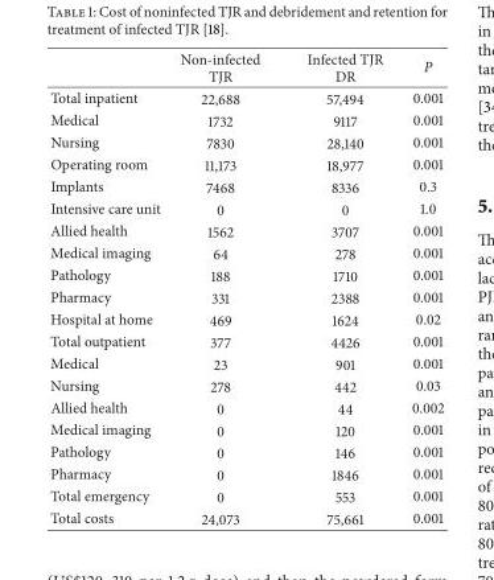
<table><thead><tr><td></td><td>Non-infected TJR</td><td>Infected TJR DR</td><td>P</td></tr></thead><tbody><tr><td>Total inpatient</td><td>22,688</td><td>57,494</td><td>0.001</td></tr><tr><td>Medical</td><td>1732</td><td>9117</td><td>0.001</td></tr><tr><td>Nursing</td><td>7830</td><td>28,140</td><td>0.001</td></tr><tr><td>Operating room</td><td>11,173</td><td>18,977</td><td>0.001</td></tr><tr><td>Implants</td><td>7468</td><td>8336</td><td>0.3</td></tr><tr><td>Intensive care unit</td><td>0</td><td>0</td><td>1.0</td></tr><tr><td>Allied health</td><td>1562</td><td>3707</td><td>0.001</td></tr><tr><td>Medical imaging</td><td>64</td><td>278</td><td>0.001</td></tr><tr><td>Pathology</td><td>188</td><td>1710</td><td>0.001</td></tr><tr><td>Pharmacy</td><td>331</td><td>2388</td><td>0.001</td></tr><tr><td>Hospital at home</td><td>469</td><td>1624</td><td>0.02</td></tr><tr><td>Total outpatient</td><td>377</td><td>4426</td><td>0.001</td></tr><tr><td>Medical</td><td>23</td><td>901</td><td>0.001</td></tr><tr><td>Nursing</td><td>278</td><td>442</td><td>0.03</td></tr><tr><td>Allied health</td><td>0</td><td>44</td><td>0.002</td></tr><tr><td>Medical imaging</td><td>0</td><td>120</td><td>0.001</td></tr><tr><td>Pathology</td><td>0</td><td>146</td><td>0.001</td></tr><tr><td>Pharmacy</td><td>0</td><td>1846</td><td>0.001</td></tr><tr><td>Total emergency</td><td>0</td><td>553</td><td>0.001</td></tr><tr><td>Total costs</td><td>24,073</td><td>75,661</td><td>0.001</td></tr></tbody></table>